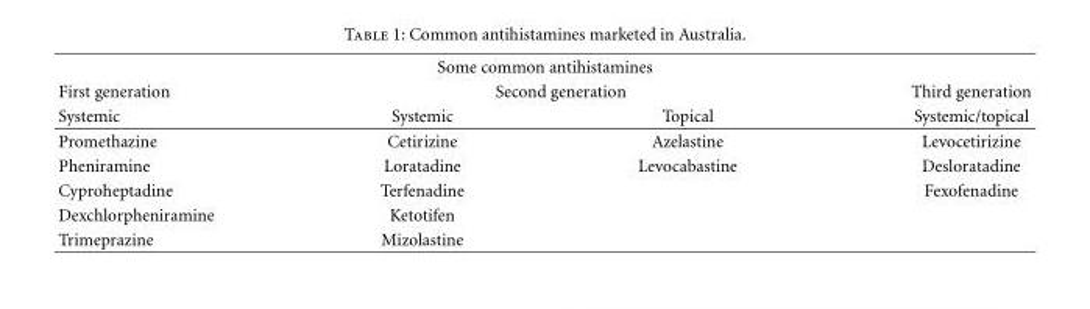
<table><thead><tr><td colspan="4">Some common antihistamines</td></tr><tr><td rowspan="2">First generation Systemic</td><td colspan="2">Second generation</td><td rowspan="2">Third generation Systemic/topical</td></tr><tr><td>Systemic</td><td>Topical</td></tr></thead><tbody><tr><td>Promethazine</td><td>Cetirizine</td><td>Azelastine</td><td>Levocetirizine</td></tr><tr><td>Pheniramine</td><td>Loratadine</td><td>Levocabastine</td><td>Desloratadine</td></tr><tr><td>Cyproheptadine</td><td>Terfenadine</td><td></td><td>Fexofenadine</td></tr><tr><td>Dexchlorpheniramine</td><td>Ketotifen</td><td></td><td></td></tr><tr><td>Trimeprazine</td><td>Mizolastine</td><td></td><td></td></tr></tbody></table>